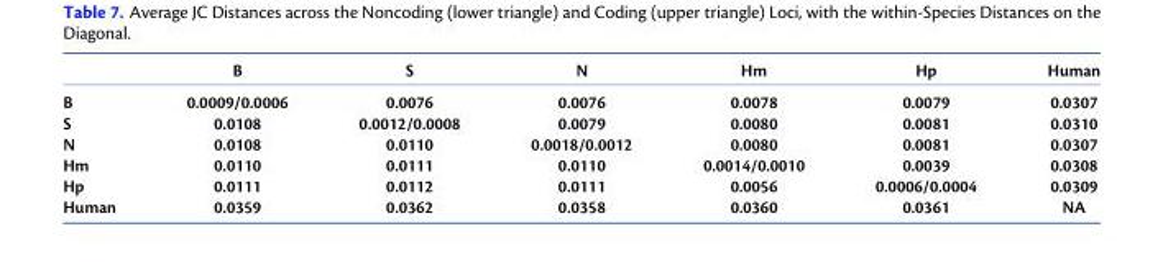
<table><thead><tr><td></td><td>B</td><td>S</td><td>N</td><td>Hm</td><td>Hp</td><td>Human</td></tr></thead><tbody><tr><td>B</td><td>0.0009/0.0006</td><td>0.0076</td><td>0.0076</td><td>0.0078</td><td>0.0079</td><td>0.0307</td></tr><tr><td>S</td><td>0.0108</td><td>0.0012/0.0008</td><td>0.0079</td><td>0.0080</td><td>0.0081</td><td>0.0310</td></tr><tr><td>N</td><td>0.0108</td><td>0.0110</td><td>0.0018/0.0012</td><td>0.0080</td><td>0.0081</td><td>0.0307</td></tr><tr><td>Hm</td><td>0.0110</td><td>0.0111</td><td>0.0110</td><td>0.0014/0.0010</td><td>0.0039</td><td>0.0308</td></tr><tr><td>Hp</td><td>0.0111</td><td>0.0112</td><td>0.0111</td><td>0.0056</td><td>0.0006/0.0004</td><td>0.0309</td></tr><tr><td>Human</td><td>0.0359</td><td>0.0362</td><td>0.0358</td><td>0.0360</td><td>0.0361</td><td>NA</td></tr></tbody></table>